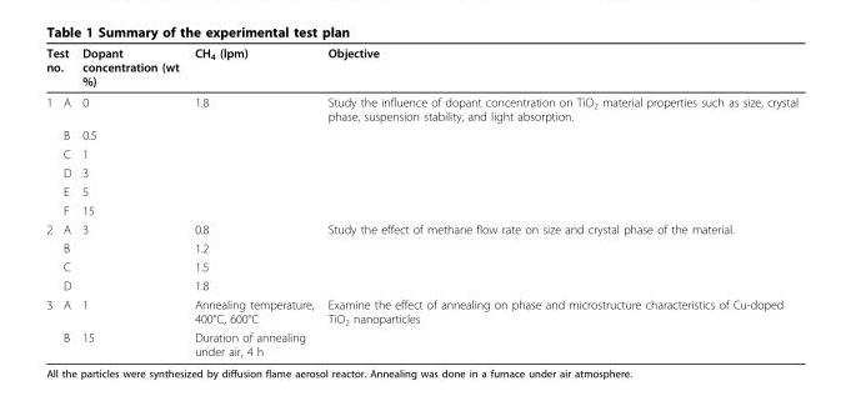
<table><thead><tr><td colspan="2">Test no.</td><td rowspan="2">Dopant concentration (wt %) 0</td><td rowspan="2">CH<sub>4</sub> (lpm) 1.8</td><td rowspan="2">Objective Study the influence of dopant concentration on TiO<sub>2</sub> material properties such as size, crystal phase, suspension stability, and light absorption.</td></tr><tr><td>1</td><td>A</td></tr></thead><tbody><tr><td></td><td>B</td><td>0.5</td><td></td><td></td></tr><tr><td></td><td>C</td><td>1</td><td></td><td></td></tr><tr><td></td><td>D</td><td>3</td><td></td><td></td></tr><tr><td></td><td>E</td><td>5</td><td></td><td></td></tr><tr><td></td><td>F</td><td>15</td><td></td><td></td></tr><tr><td rowspan="4">2</td><td>A</td><td>3</td><td>0.8</td><td>Study the effect of methane flow rate on size and crystal phase of the material.</td></tr><tr><td>B</td><td></td><td>1.2</td><td></td></tr><tr><td>C</td><td></td><td>1.5</td><td></td></tr><tr><td>D</td><td></td><td>1.8</td><td></td></tr><tr><td rowspan="2">3</td><td>A</td><td>1</td><td>Annealing temperature, 400°C, 600°C</td><td>Examine the effect of annealing on phase and microstructure characteristics of Cu-doped TiO<sub>2</sub> nanoparticles</td></tr><tr><td>B</td><td>15</td><td>Duration of annealing under air, 4 h</td><td></td></tr></tbody></table>